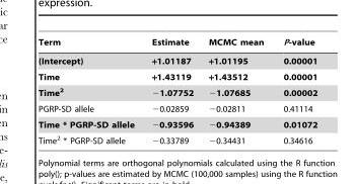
<table><thead><tr><td>Term</td><td>Estimate</td><td>MCMC mean</td><td>P-value</td></tr></thead><tbody><tr><td>(Intercept)</td><td>+1.01187</td><td>+1.01195</td><td>0.00001</td></tr><tr><td>Time</td><td>+1.43119</td><td>+1.43512</td><td>0.00001</td></tr><tr><td>Time<sup>2</sup></td><td>−1.07752</td><td>−1.07685</td><td>0.00002</td></tr><tr><td>PGRP-SD allele</td><td>−0.02859</td><td>−0.02811</td><td>0.41114</td></tr><tr><td>Time * PGRP-SD allele</td><td>−0.93596</td><td>−0.94389</td><td>0.01072</td></tr><tr><td>Time<sup>2</sup> * PGRP-SD allele</td><td>−0.33789</td><td>−0.34431</td><td>0.34616</td></tr></tbody></table>